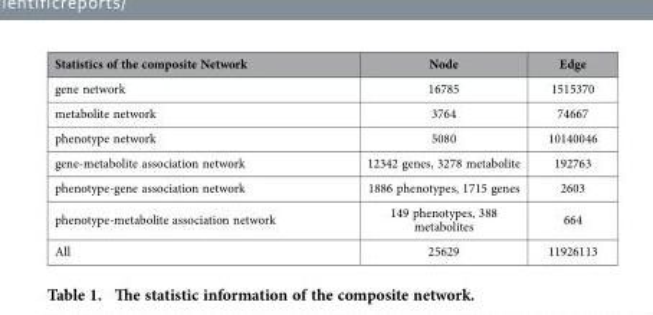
<table><thead><tr><td>Statistics of the composite Network</td><td>Node</td><td>Edge</td></tr></thead><tbody><tr><td>gene network</td><td>16785</td><td>1515370</td></tr><tr><td>metabolite network</td><td>3764</td><td>74667</td></tr><tr><td>phenotype network</td><td>5080</td><td>10140046</td></tr><tr><td>gene-metabolite association network</td><td>12342 genes, 3278 metabolite</td><td>192763</td></tr><tr><td>phenotype-gene association network</td><td>1886 phenotypes, 1715 genes</td><td>2603</td></tr><tr><td>phenotype-metabolite association network</td><td>149 phenotypes, 388 metabolites</td><td>664</td></tr><tr><td>All</td><td>25629</td><td>11926113</td></tr></tbody></table>